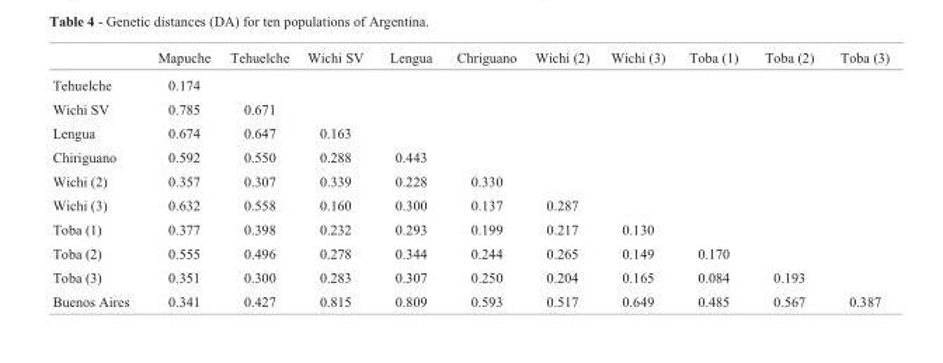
<table><thead><tr><td></td><td>Mapuche</td><td>Tehuelche</td><td>Wichi SV</td><td>Lengua</td><td>Chriguano</td><td>Wichi (2)</td><td>Wichi (3)</td><td>Toba (1)</td><td>Toba (2)</td><td>Toba (3)</td></tr></thead><tbody><tr><td>Tehuelche</td><td>0.174</td><td></td><td></td><td></td><td></td><td></td><td></td><td></td><td></td><td></td></tr><tr><td>Wichi SV</td><td>0.785</td><td>0.671</td><td></td><td></td><td></td><td></td><td></td><td></td><td></td><td></td></tr><tr><td>Lengua</td><td>0.674</td><td>0.647</td><td>0.163</td><td></td><td></td><td></td><td></td><td></td><td></td><td></td></tr><tr><td>Chiriguano</td><td>0.592</td><td>0.550</td><td>0.288</td><td>0.443</td><td></td><td></td><td></td><td></td><td></td><td></td></tr><tr><td>Wichi (2)</td><td>0.357</td><td>0.307</td><td>0.339</td><td>0.228</td><td>0.330</td><td></td><td></td><td></td><td></td><td></td></tr><tr><td>Wichi (3)</td><td>0.632</td><td>0.558</td><td>0.160</td><td>0.300</td><td>0.137</td><td>0.287</td><td></td><td></td><td></td><td></td></tr><tr><td>Toba (1)</td><td>0.377</td><td>0.398</td><td>0.232</td><td>0.293</td><td>0.199</td><td>0.217</td><td>0.130</td><td></td><td></td><td></td></tr><tr><td>Toba (2)</td><td>0.555</td><td>0.496</td><td>0.278</td><td>0.344</td><td>0.244</td><td>0.265</td><td>0.149</td><td>0.170</td><td></td><td></td></tr><tr><td>Toba (3)</td><td>0.351</td><td>0.300</td><td>0.283</td><td>0.307</td><td>0.250</td><td>0.204</td><td>0.165</td><td>0.084</td><td>0.193</td><td></td></tr><tr><td>Buenos Aires</td><td>0.341</td><td>0.427</td><td>0.815</td><td>0.809</td><td>0.593</td><td>0.517</td><td>0.649</td><td>0.485</td><td>0.567</td><td>0.387</td></tr></tbody></table>